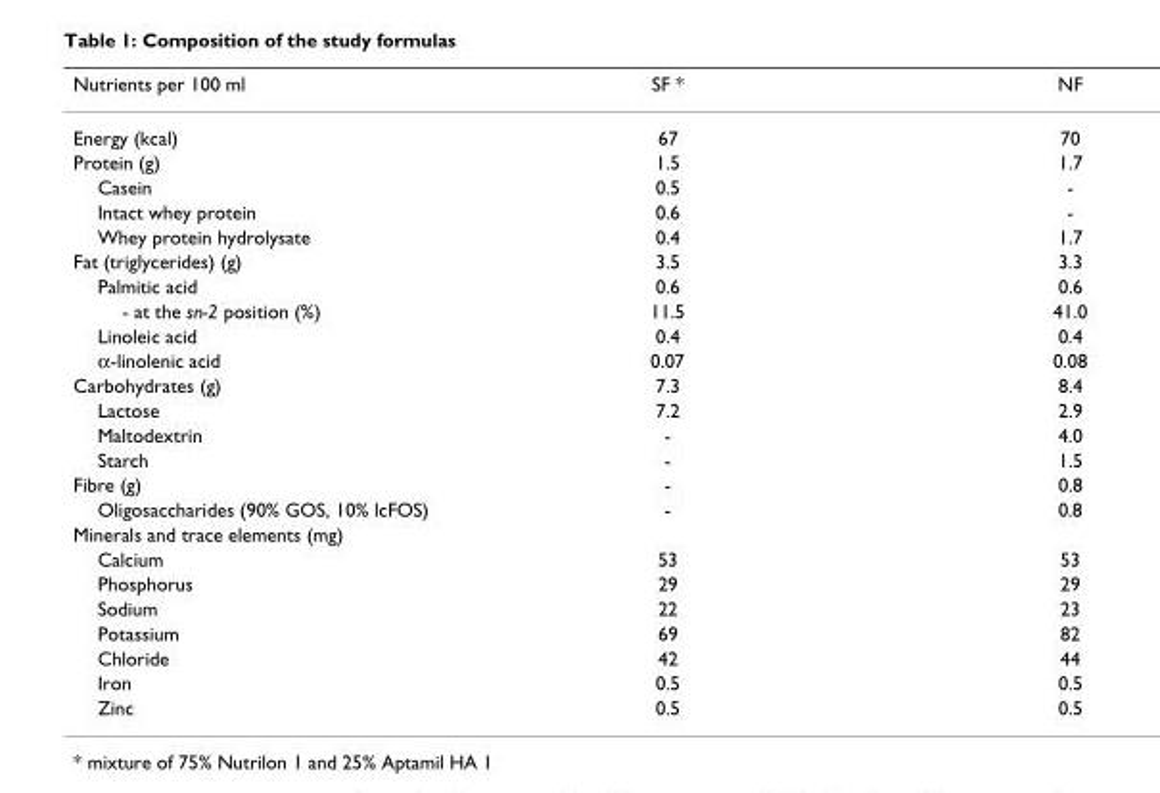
<table><thead><tr><td>Nutrients per 100 ml</td><td>SF *</td><td>NF</td></tr></thead><tbody><tr><td>Energy (kcal)</td><td>67</td><td>70</td></tr><tr><td>Protein (g)</td><td>1.5</td><td>1.7</td></tr><tr><td>Casein</td><td>0.5</td><td>-</td></tr><tr><td>Intact whey protein</td><td>0.6</td><td>-</td></tr><tr><td>Whey protein hydrolysate</td><td>0.4</td><td>1.7</td></tr><tr><td>Fat (triglycerides) (g)</td><td>3.5</td><td>3.3</td></tr><tr><td>Palmitic acid</td><td>0.6</td><td>0.6</td></tr><tr><td>- at the sn-2 position (%)</td><td>11.5</td><td>41.0</td></tr><tr><td>Linoleic acid</td><td>0.4</td><td>0.4</td></tr><tr><td>α-linolenic acid</td><td>0.07</td><td>0.08</td></tr><tr><td>Carbohydrates (g)</td><td>7.3</td><td>8.4</td></tr><tr><td>Lactose</td><td>7.2</td><td>2.9</td></tr><tr><td>Maltodextrin</td><td>-</td><td>4.0</td></tr><tr><td>Starch</td><td>-</td><td>1.5</td></tr><tr><td>Fibre (g)</td><td>-</td><td>0.8</td></tr><tr><td>Oligosaccharides (90% GOS, 10% lcFOS)</td><td>-</td><td>0.8</td></tr><tr><td colspan="3">Minerals and trace elements (mg)</td></tr><tr><td>Calcium</td><td>53</td><td>53</td></tr><tr><td>Phosphorus</td><td>29</td><td>29</td></tr><tr><td>Sodium</td><td>22</td><td>23</td></tr><tr><td>Potassium</td><td>69</td><td>82</td></tr><tr><td>Chloride</td><td>42</td><td>44</td></tr><tr><td>Iron</td><td>0.5</td><td>0.5</td></tr><tr><td>Zinc</td><td>0.5</td><td>0.5</td></tr></tbody></table>